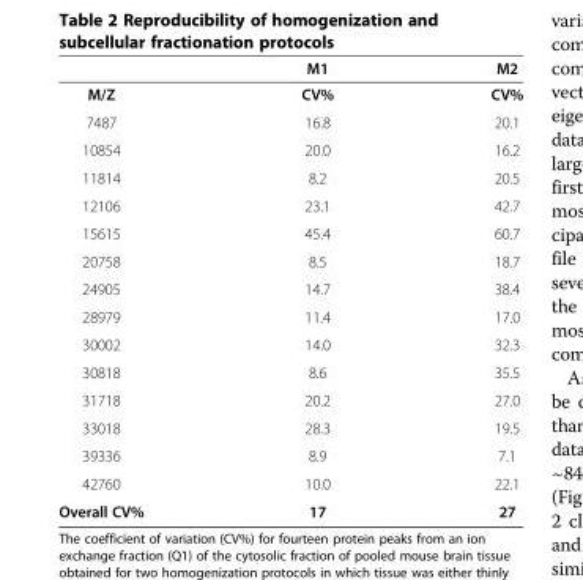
<table><thead><tr><td></td><td>M1</td><td>M2</td></tr></thead><tbody><tr><td>M/Z</td><td>CV%</td><td>CV%</td></tr><tr><td>7487</td><td>16.8</td><td>20.1</td></tr><tr><td>10854</td><td>20.0</td><td>16.2</td></tr><tr><td>11814</td><td>8.2</td><td>20.5</td></tr><tr><td>12106</td><td>23.1</td><td>42.7</td></tr><tr><td>15615</td><td>45.4</td><td>60.7</td></tr><tr><td>20758</td><td>8.5</td><td>18.7</td></tr><tr><td>24905</td><td>14.7</td><td>38.4</td></tr><tr><td>28979</td><td>11.4</td><td>17.0</td></tr><tr><td>30002</td><td>14.0</td><td>32.3</td></tr><tr><td>30818</td><td>8.6</td><td>35.5</td></tr><tr><td>31718</td><td>20.2</td><td>27.0</td></tr><tr><td>33018</td><td>28.3</td><td>19.5</td></tr><tr><td>39336</td><td>8.9</td><td>7.1</td></tr><tr><td>42760</td><td>10.0</td><td>22.1</td></tr><tr><td>Overall CV%</td><td>17</td><td>27</td></tr></tbody></table>